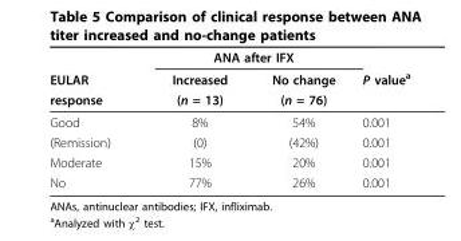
<table><thead><tr><td rowspan="3">EULAR response</td><td colspan="2">ANA after IFX</td><td rowspan="3">P value<sup>a</sup></td></tr><tr><td rowspan="2">Increased (n = 13)</td><td rowspan="2">No change (n = 76)</td></tr><tr></tr></thead><tbody><tr><td>Good</td><td>8%</td><td>54%</td><td>0.001</td></tr><tr><td>(Remission)</td><td>(0)</td><td>(42%)</td><td>0.001</td></tr><tr><td>Moderate</td><td>15%</td><td>20%</td><td>0.001</td></tr><tr><td>No</td><td>77%</td><td>26%</td><td>0.001</td></tr></tbody></table>